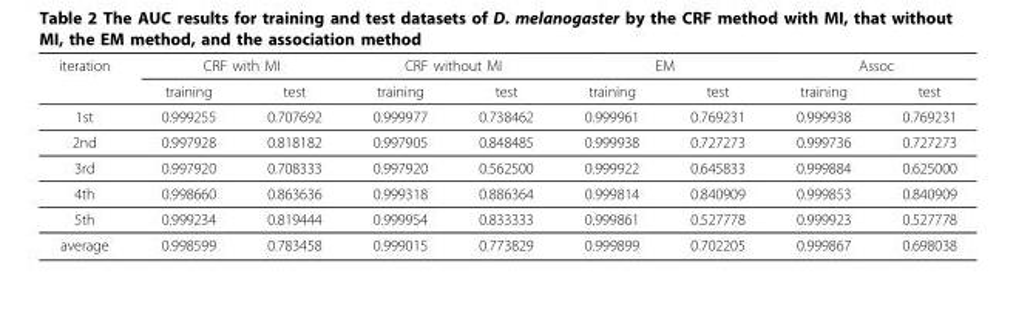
<table><thead><tr><td rowspan="2">iteration</td><td colspan="2">CRF with MI</td><td colspan="2">CRF without MI</td><td colspan="2">EM</td><td colspan="2">Assoc</td></tr><tr><td>training</td><td>test</td><td>training</td><td>test</td><td>training</td><td>test</td><td>training</td><td>test</td></tr></thead><tbody><tr><td>1st</td><td>0.999255</td><td>0.707692</td><td>0.999977</td><td>0.738462</td><td>0.999961</td><td>0.769231</td><td>0.999938</td><td>0.769231</td></tr><tr><td>2nd</td><td>0.997928</td><td>0.818182</td><td>0.997905</td><td>0.848485</td><td>0.999938</td><td>0.727273</td><td>0.999736</td><td>0.727273</td></tr><tr><td>3rd</td><td>0.997920</td><td>0.708333</td><td>0.997920</td><td>0.562500</td><td>0.999922</td><td>0.645833</td><td>0.999884</td><td>0.625000</td></tr><tr><td>4th</td><td>0.998660</td><td>0.863636</td><td>0.999318</td><td>0.886364</td><td>0.999814</td><td>0.840909</td><td>0.999853</td><td>0.840909</td></tr><tr><td>5th</td><td>0.999234</td><td>0.819444</td><td>0.999954</td><td>0.833333</td><td>0.999861</td><td>0.527778</td><td>0.999923</td><td>0.527778</td></tr><tr><td>average</td><td>0.998599</td><td>0.783458</td><td>0.999015</td><td>0.773829</td><td>0.999899</td><td>0.702205</td><td>0.999867</td><td>0.698038</td></tr></tbody></table>